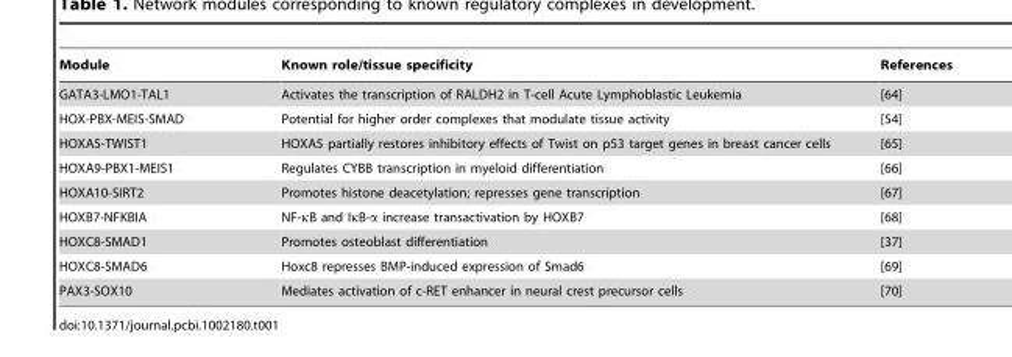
<table><thead><tr><td>Module</td><td>Known role/tissue specificity</td><td>References</td></tr></thead><tbody><tr><td>GATA3-LMO1-TAL1</td><td>Activates the transcription of RALDH2 in T-cell Acute Lymphoblastic Leukemia</td><td>[64]</td></tr><tr><td>HOX-PBX-MEIS-SMAD</td><td>Potential for higher order complexes that modulate tissue activity</td><td>[54]</td></tr><tr><td>HOXA5-TWIST1</td><td>HOXA5 partially restores inhibitory effects of Twist on p53 target genes in breast cancer cells</td><td>[65]</td></tr><tr><td>HOXA9-PBX1-MEIS1</td><td>Regulates CYBB transcription in myeloid differentiation</td><td>[66]</td></tr><tr><td>HOXA10-SIRT2</td><td>Promotes histone deacetylation; represses gene transcription</td><td>[67]</td></tr><tr><td>HOXB7-NFKBIA</td><td>NF-κB and IκB-α increase transactivation by HOXB7</td><td>[68]</td></tr><tr><td>HOXC8-SMAD1</td><td>Promotes osteoblast differentiation</td><td>[37]</td></tr><tr><td>HOXC8-SMAD6</td><td>Hoxc8 represses BMP-induced expression of Smad6</td><td>[69]</td></tr><tr><td>PAX3-SOX10</td><td>Mediates activation of c-RET enhancer in neural crest precursor cells</td><td>[70]</td></tr></tbody></table>